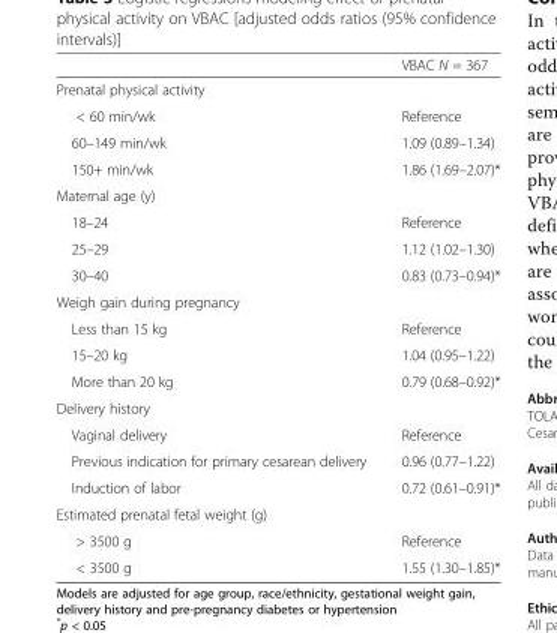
<table><thead><tr><td></td><td>VBAC N = 367</td></tr></thead><tbody><tr><td colspan="2">Prenatal physical activity</td></tr><tr><td>&lt; 60 min/wk</td><td>Reference</td></tr><tr><td>60–149 min/wk</td><td>1.09 (0.89–1.34)</td></tr><tr><td>150+ min/wk</td><td>1.86 (1.69–2.07)*</td></tr><tr><td colspan="2">Maternal age (y)</td></tr><tr><td>18–24</td><td>Reference</td></tr><tr><td>25–29</td><td>1.12 (1.02–1.30)</td></tr><tr><td>30–40</td><td>0.83 (0.73–0.94)*</td></tr><tr><td colspan="2">Weigh gain during pregnancy</td></tr><tr><td>Less than 15 kg</td><td>Reference</td></tr><tr><td>15–20 kg</td><td>1.04 (0.95–1.22)</td></tr><tr><td>More than 20 kg</td><td>0.79 (0.68–0.92)*</td></tr><tr><td colspan="2">Delivery history</td></tr><tr><td>Vaginal delivery</td><td>Reference</td></tr><tr><td>Previous indication for primary cesarean delivery</td><td>0.96 (0.77–1.22)</td></tr><tr><td>Induction of labor</td><td>0.72 (0.61–0.91)*</td></tr><tr><td colspan="2">Estimated prenatal fetal weight (g)</td></tr><tr><td>&gt; 3500 g</td><td>Reference</td></tr><tr><td>&lt; 3500 g</td><td>1.55 (1.30–1.85)*</td></tr></tbody></table>